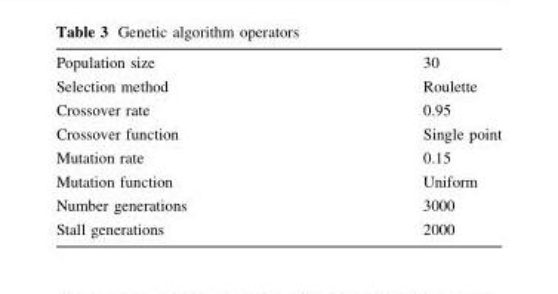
<table><tbody><tr><td>Population size</td><td>30</td></tr><tr><td>Selection method</td><td>Roulette</td></tr><tr><td>Crossover rate</td><td>0.95</td></tr><tr><td>Crossover function</td><td>Single point</td></tr><tr><td>Mutation rate</td><td>0.15</td></tr><tr><td>Mutation function</td><td>Uniform</td></tr><tr><td>Number generations</td><td>3000</td></tr><tr><td>Stall generations</td><td>2000</td></tr></tbody></table>